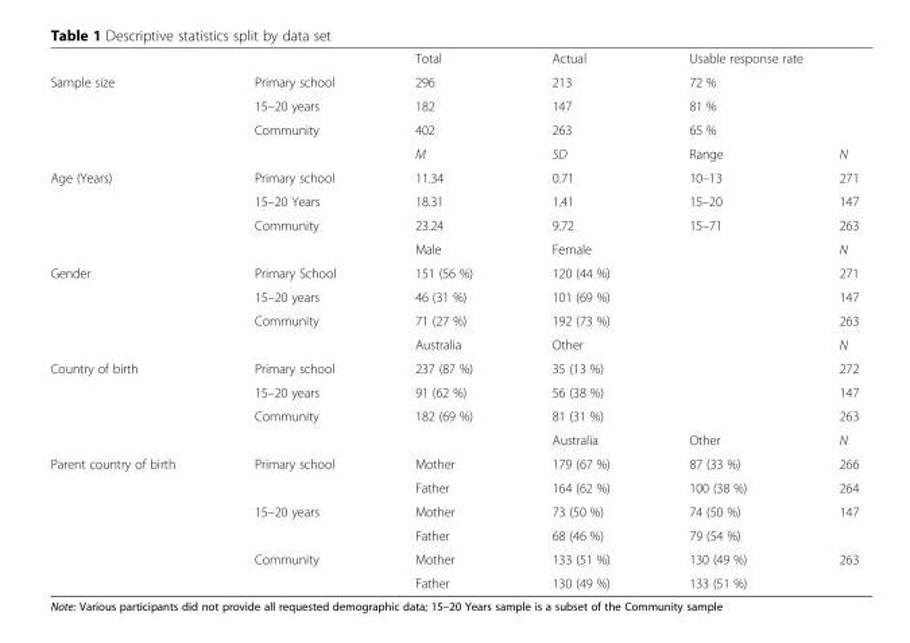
<table><thead><tr><td></td><td></td><td>Total</td><td>Actual</td><td colspan="2">Usable response rate</td></tr></thead><tbody><tr><td rowspan="4">Sample size</td><td>Primary school</td><td>296</td><td>213</td><td colspan="2">72 %</td></tr><tr><td>15–20 years</td><td>182</td><td>147</td><td colspan="2">81 %</td></tr><tr><td>Community</td><td>402</td><td>263</td><td colspan="2">65 %</td></tr><tr><td></td><td>M</td><td>SD</td><td>Range</td><td>N</td></tr><tr><td rowspan="4">Age (Years)</td><td>Primary school</td><td>11.34</td><td>0.71</td><td>10–13</td><td>271</td></tr><tr><td>15–20 Years</td><td>18.31</td><td>1.41</td><td>15–20</td><td>147</td></tr><tr><td>Community</td><td>23.24</td><td>9.72</td><td>15–71</td><td>263</td></tr><tr><td></td><td>Male</td><td>Female</td><td></td><td>N</td></tr><tr><td rowspan="4">Gender</td><td>Primary School</td><td>151 (56 %)</td><td>120 (44 %)</td><td></td><td>271</td></tr><tr><td>15–20 years</td><td>46 (31 %)</td><td>101 (69 %)</td><td></td><td>147</td></tr><tr><td>Community</td><td>71 (27 %)</td><td>192 (73 %)</td><td></td><td>263</td></tr><tr><td></td><td>Australia</td><td>Other</td><td></td><td>N</td></tr><tr><td rowspan="4">Country of birth</td><td>Primary school</td><td>237 (87 %)</td><td>35 (13 %)</td><td></td><td>272</td></tr><tr><td>15–20 years</td><td>91 (62 %)</td><td>56 (38 %)</td><td></td><td>147</td></tr><tr><td>Community</td><td>182 (69 %)</td><td>81 (31 %)</td><td></td><td>263</td></tr><tr><td></td><td></td><td>Australia</td><td>Other</td><td>N</td></tr><tr><td rowspan="6">Parent country of birth</td><td rowspan="2">Primary school</td><td>Mother</td><td>179 (67 %)</td><td>87 (33 %)</td><td>266</td></tr><tr><td>Father</td><td>164 (62 %)</td><td>100 (38 %)</td><td>264</td></tr><tr><td rowspan="2">15–20 years</td><td>Mother</td><td>73 (50 %)</td><td>74 (50 %)</td><td rowspan="2">147</td></tr><tr><td>Father</td><td>68 (46 %)</td><td>79 (54 %)</td></tr><tr><td rowspan="2">Community</td><td>Mother</td><td>133 (51 %)</td><td>130 (49 %)</td><td rowspan="2">263</td></tr><tr><td>Father</td><td>130 (49 %)</td><td>133 (51 %)</td></tr></tbody></table>